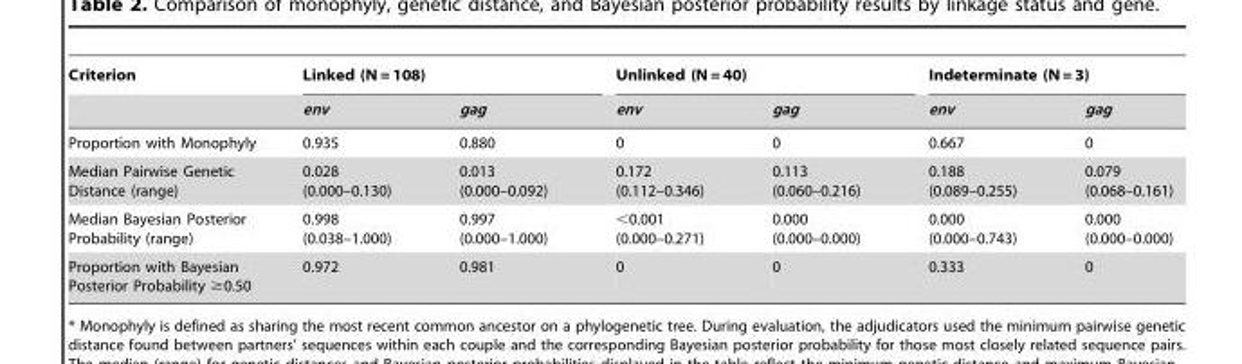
<table><thead><tr><td rowspan="2">Criterion</td><td colspan="2">Linked (N = 108)</td><td colspan="2">Unlinked (N = 40)</td><td colspan="2">Indeterminate (N = 3)</td></tr><tr><td>env</td><td>gag</td><td>env</td><td>gag</td><td>env</td><td>gag</td></tr></thead><tbody><tr><td>Proportion with Monophyly</td><td>0.935</td><td>0.880</td><td>0</td><td>0</td><td>0.667</td><td>0</td></tr><tr><td>Median Pairwise Genetic Distance (range)</td><td>0.028 (0.000–0.130)</td><td>0.013 (0.000–0.092)</td><td>0.172 (0.112–0.346)</td><td>0.113 (0.060–0.216)</td><td>0.188 (0.089–0.255)</td><td>0.079 (0.068–0.161)</td></tr><tr><td>Median Bayesian Posterior Probability (range)</td><td>0.998 (0.038–1.000)</td><td>0.997 (0.000–1.000)</td><td>&lt;0.001 (0.000–0.271)</td><td>0.000 (0.000–0.000)</td><td>0.000 (0.000–0.743)</td><td>0.000 (0.000–0.000)</td></tr><tr><td>Proportion with Bayesian Posterior Probability ≥0.50</td><td>0.972</td><td>0.981</td><td>0</td><td>0</td><td>0.333</td><td>0</td></tr></tbody></table>